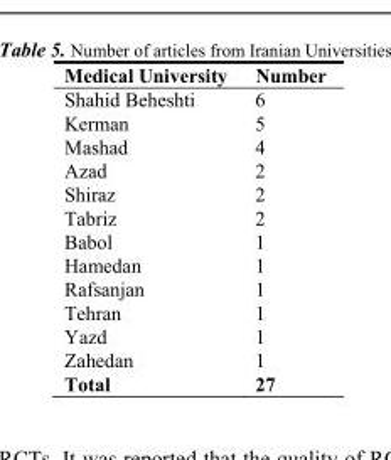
<table><thead><tr><td>Medical University</td><td>Number</td></tr></thead><tbody><tr><td>Shahid Beheshti</td><td>6</td></tr><tr><td>Kerman</td><td>5</td></tr><tr><td>Mashad</td><td>4</td></tr><tr><td>Azad</td><td>2</td></tr><tr><td>Shiraz</td><td>2</td></tr><tr><td>Tabriz</td><td>2</td></tr><tr><td>Babol</td><td>1</td></tr><tr><td>Hamedan</td><td>1</td></tr><tr><td>Rafsanjan</td><td>1</td></tr><tr><td>Tehran</td><td>1</td></tr><tr><td>Yazd</td><td>1</td></tr><tr><td>Zahedan</td><td>1</td></tr><tr><td>Total</td><td>27</td></tr></tbody></table>